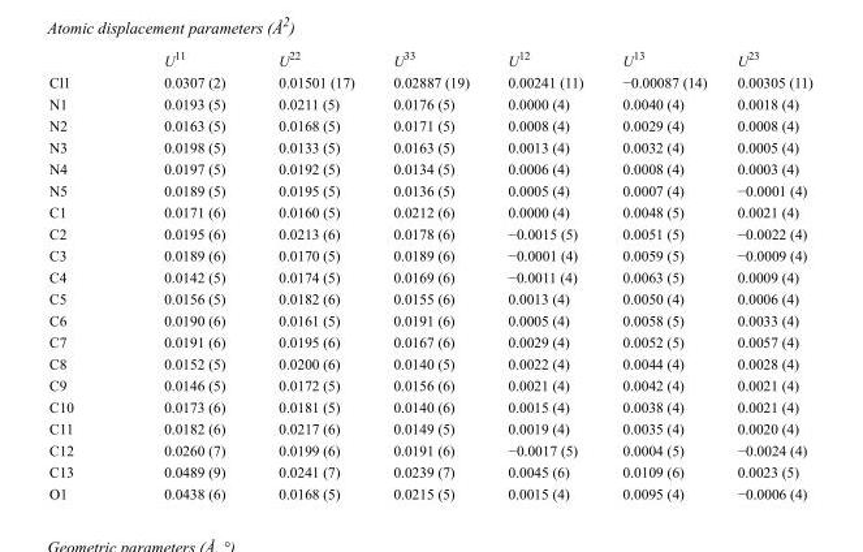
<table><thead><tr><td></td><td>U<sup>11</sup></td><td>U<sup>22</sup></td><td>U<sup>33</sup></td><td>U<sup>12</sup></td><td>U<sup>13</sup></td><td>U<sup>23</sup></td></tr></thead><tbody><tr><td>Cl1</td><td>0.0307 (2)</td><td>0.01501 (17)</td><td>0.02887 (19)</td><td>0.00241 (11)</td><td>−0.00087 (14)</td><td>0.00305 (11)</td></tr><tr><td>N1</td><td>0.0193 (5)</td><td>0.0211 (5)</td><td>0.0176 (5)</td><td>0.0000 (4)</td><td>0.0040 (4)</td><td>0.0018 (4)</td></tr><tr><td>N2</td><td>0.0163 (5)</td><td>0.0168 (5)</td><td>0.0171 (5)</td><td>0.0008 (4)</td><td>0.0029 (4)</td><td>0.0008 (4)</td></tr><tr><td>N3</td><td>0.0198 (5)</td><td>0.0133 (5)</td><td>0.0163 (5)</td><td>0.0013 (4)</td><td>0.0032 (4)</td><td>0.0005 (4)</td></tr><tr><td>N4</td><td>0.0197 (5)</td><td>0.0192 (5)</td><td>0.0134 (5)</td><td>0.0006 (4)</td><td>0.0008 (4)</td><td>0.0003 (4)</td></tr><tr><td>N5</td><td>0.0189 (5)</td><td>0.0195 (5)</td><td>0.0136 (5)</td><td>0.0005 (4)</td><td>0.0007 (4)</td><td>−0.0001 (4)</td></tr><tr><td>C1</td><td>0.0171 (6)</td><td>0.0160 (5)</td><td>0.0212 (6)</td><td>0.0000 (4)</td><td>0.0048 (5)</td><td>0.0021 (4)</td></tr><tr><td>C2</td><td>0.0195 (6)</td><td>0.0213 (6)</td><td>0.0178 (6)</td><td>−0.0015 (5)</td><td>0.0051 (5)</td><td>−0.0022 (4)</td></tr><tr><td>C3</td><td>0.0189 (6)</td><td>0.0170 (5)</td><td>0.0189 (6)</td><td>−0.0001 (4)</td><td>0.0059 (5)</td><td>−0.0009 (4)</td></tr><tr><td>C4</td><td>0.0142 (5)</td><td>0.0174 (5)</td><td>0.0169 (6)</td><td>−0.0011 (4)</td><td>0.0063 (5)</td><td>0.0009 (4)</td></tr><tr><td>C5</td><td>0.0156 (5)</td><td>0.0182 (6)</td><td>0.0155 (6)</td><td>0.0013 (4)</td><td>0.0050 (4)</td><td>0.0006 (4)</td></tr><tr><td>C6</td><td>0.0190 (6)</td><td>0.0161 (5)</td><td>0.0191 (6)</td><td>0.0005 (4)</td><td>0.0058 (5)</td><td>0.0033 (4)</td></tr><tr><td>C7</td><td>0.0191 (6)</td><td>0.0195 (6)</td><td>0.0167 (6)</td><td>0.0029 (4)</td><td>0.0052 (5)</td><td>0.0057 (4)</td></tr><tr><td>C8</td><td>0.0152 (5)</td><td>0.0200 (6)</td><td>0.0140 (5)</td><td>0.0022 (4)</td><td>0.0044 (4)</td><td>0.0028 (4)</td></tr><tr><td>C9</td><td>0.0146 (5)</td><td>0.0172 (5)</td><td>0.0156 (6)</td><td>0.0021 (4)</td><td>0.0042 (4)</td><td>0.0021 (4)</td></tr><tr><td>C10</td><td>0.0173 (6)</td><td>0.0181 (5)</td><td>0.0140 (6)</td><td>0.0015 (4)</td><td>0.0038 (4)</td><td>0.0021 (4)</td></tr><tr><td>C11</td><td>0.0182 (6)</td><td>0.0217 (6)</td><td>0.0149 (5)</td><td>0.0019 (4)</td><td>0.0035 (4)</td><td>0.0020 (4)</td></tr><tr><td>C12</td><td>0.0260 (7)</td><td>0.0199 (6)</td><td>0.0191 (6)</td><td>−0.0017 (5)</td><td>0.0004 (5)</td><td>−0.0024 (4)</td></tr><tr><td>C13</td><td>0.0489 (9)</td><td>0.0241 (7)</td><td>0.0239 (7)</td><td>0.0045 (6)</td><td>0.0109 (6)</td><td>0.0023 (5)</td></tr><tr><td>O1</td><td>0.0438 (6)</td><td>0.0168 (5)</td><td>0.0215 (5)</td><td>0.0015 (4)</td><td>0.0095 (4)</td><td>−0.0006 (4)</td></tr></tbody></table>